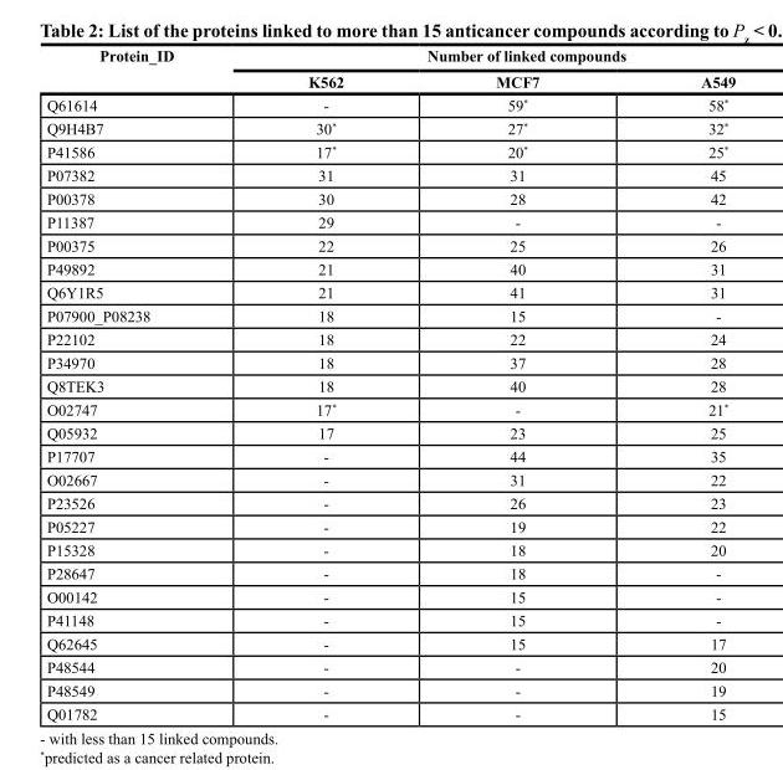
<table><thead><tr><td rowspan="2">Protein_ID</td><td colspan="3">Number of linked compounds</td></tr><tr><td>K562</td><td>MCF7</td><td>A549</td></tr></thead><tbody><tr><td>Q61614</td><td>-</td><td>59*</td><td>58*</td></tr><tr><td>Q9H4B7</td><td>30*</td><td>27*</td><td>32*</td></tr><tr><td>P41586</td><td>17*</td><td>20*</td><td>25*</td></tr><tr><td>P07382</td><td>31</td><td>31</td><td>45</td></tr><tr><td>P00378</td><td>30</td><td>28</td><td>42</td></tr><tr><td>P11387</td><td>29</td><td>-</td><td>-</td></tr><tr><td>P00375</td><td>22</td><td>25</td><td>26</td></tr><tr><td>P49892</td><td>21</td><td>40</td><td>31</td></tr><tr><td>Q6Y1R5</td><td>21</td><td>41</td><td>31</td></tr><tr><td>P07900_P08238</td><td>18</td><td>15</td><td>-</td></tr><tr><td>P22102</td><td>18</td><td>22</td><td>24</td></tr><tr><td>P34970</td><td>18</td><td>37</td><td>28</td></tr><tr><td>Q8TEK3</td><td>18</td><td>40</td><td>28</td></tr><tr><td>O02747</td><td>17*</td><td>-</td><td>21*</td></tr><tr><td>Q05932</td><td>17</td><td>23</td><td>25</td></tr><tr><td>P17707</td><td>-</td><td>44</td><td>35</td></tr><tr><td>O02667</td><td>-</td><td>31</td><td>22</td></tr><tr><td>P23526</td><td>-</td><td>26</td><td>23</td></tr><tr><td>P05227</td><td>-</td><td>19</td><td>22</td></tr><tr><td>P15328</td><td>-</td><td>18</td><td>20</td></tr><tr><td>P28647</td><td>-</td><td>18</td><td>-</td></tr><tr><td>O00142</td><td>-</td><td>15</td><td>-</td></tr><tr><td>P41148</td><td>-</td><td>15</td><td>-</td></tr><tr><td>Q62645</td><td>-</td><td>15</td><td>17</td></tr><tr><td>P48544</td><td>-</td><td>-</td><td>20</td></tr><tr><td>P48549</td><td>-</td><td>-</td><td>19</td></tr><tr><td>Q01782</td><td>-</td><td>-</td><td>15</td></tr></tbody></table>